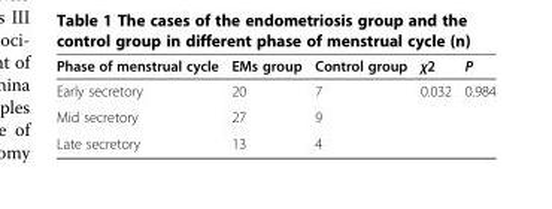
<table><thead><tr><td>Phase of menstrual cycle</td><td>EMs group</td><td>Control group</td><td>χ2</td><td>P</td></tr></thead><tbody><tr><td>Early secretory</td><td>20</td><td>7</td><td>0.032</td><td>0.984</td></tr><tr><td>Mid secretory</td><td>27</td><td>9</td><td></td><td></td></tr><tr><td>Late secretory</td><td>13</td><td>4</td><td></td><td></td></tr></tbody></table>